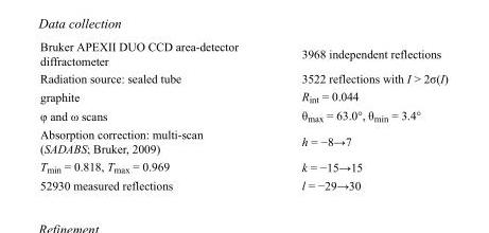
<table><tbody><tr><td>Bruker APEXII DUO CCD area-detector diffractometer</td><td>3968 independent reflections</td></tr><tr><td>Radiation source: sealed tube</td><td>3522 reflections with I &gt; 2σ(I)</td></tr><tr><td>graphite</td><td>R<sub>int</sub> = 0.044</td></tr><tr><td>φ and ω scans</td><td>θ<sub>max</sub> = 63.0°, θ<sub>min</sub> = 3.4°</td></tr><tr><td>Absorption correction: multi-scan (SADABS; Bruker, 2009)</td><td>h = −8→7</td></tr><tr><td>T<sub>min</sub> = 0.818, T<sub>max</sub> = 0.969</td><td>k = −15→15</td></tr><tr><td>52930 measured reflections</td><td>l = −29→30</td></tr></tbody></table>